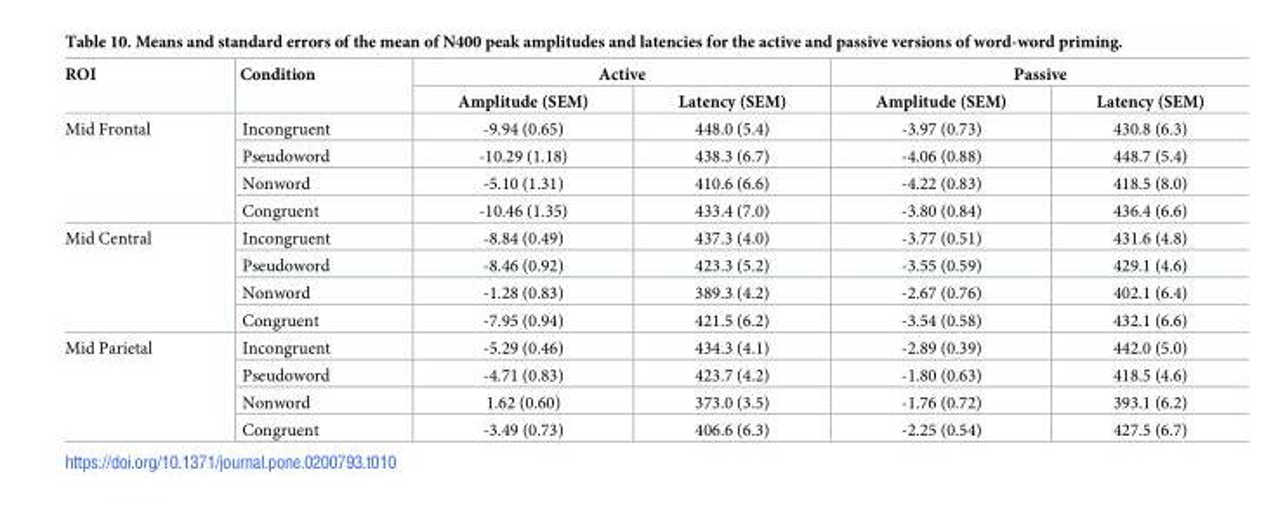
<table><thead><tr><td rowspan="2">ROI</td><td rowspan="2">Condition</td><td colspan="2">Active</td><td colspan="2">Passive</td></tr><tr><td>Amplitude (SEM)</td><td>Latency (SEM)</td><td>Amplitude (SEM)</td><td>Latency (SEM)</td></tr></thead><tbody><tr><td rowspan="4">Mid Frontal</td><td>Incongruent</td><td>-9.94 (0.65)</td><td>448.0 (5.4)</td><td>-3.97 (0.73)</td><td>430.8 (6.3)</td></tr><tr><td>Pseudoword</td><td>-10.29 (1.18)</td><td>438.3 (6.7)</td><td>-4.06 (0.88)</td><td>448.7 (5.4)</td></tr><tr><td>Nonword</td><td>-5.10 (1.31)</td><td>410.6 (6.6)</td><td>-4.22 (0.83)</td><td>418.5 (8.0)</td></tr><tr><td>Congruent</td><td>-10.46 (1.35)</td><td>433.4 (7.0)</td><td>-3.80 (0.84)</td><td>436.4 (6.6)</td></tr><tr><td rowspan="4">Mid Central</td><td>Incongruent</td><td>-8.84 (0.49)</td><td>437.3 (4.0)</td><td>-3.77 (0.51)</td><td>431.6 (4.8)</td></tr><tr><td>Pseudoword</td><td>-8.46 (0.92)</td><td>423.3 (5.2)</td><td>-3.55 (0.59)</td><td>429.1 (4.6)</td></tr><tr><td>Nonword</td><td>-1.28 (0.83)</td><td>389.3 (4.2)</td><td>-2.67 (0.76)</td><td>402.1 (6.4)</td></tr><tr><td>Congruent</td><td>-7.95 (0.94)</td><td>421.5 (6.2)</td><td>-3.54 (0.58)</td><td>432.1 (6.6)</td></tr><tr><td rowspan="4">Mid Parietal</td><td>Incongruent</td><td>-5.29 (0.46)</td><td>434.3 (4.1)</td><td>-2.89 (0.39)</td><td>442.0 (5.0)</td></tr><tr><td>Pseudoword</td><td>-4.71 (0.83)</td><td>423.7 (4.2)</td><td>-1.80 (0.63)</td><td>418.5 (4.6)</td></tr><tr><td>Nonword</td><td>1.62 (0.60)</td><td>373.0 (3.5)</td><td>-1.76 (0.72)</td><td>393.1 (6.2)</td></tr><tr><td>Congruent</td><td>-3.49 (0.73)</td><td>406.6 (6.3)</td><td>-2.25 (0.54)</td><td>427.5 (6.7)</td></tr></tbody></table>